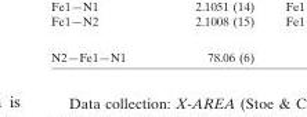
<table><tbody><tr><td>N2—Fe1—N1</td><td>78.06 (6)</td></tr></tbody></table>